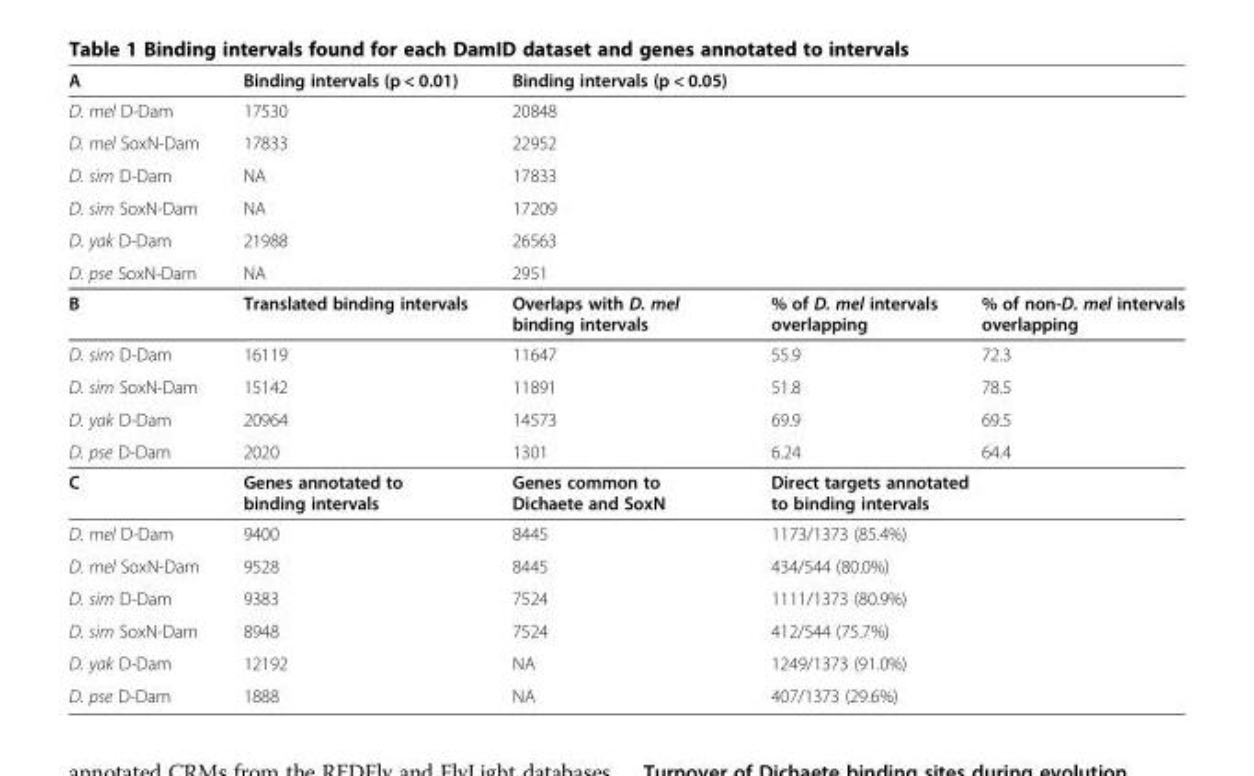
<table><thead><tr><td>A</td><td>Binding intervals (p &lt; 0.01)</td><td>Binding intervals (p &lt; 0.05)</td><td></td><td></td></tr></thead><tbody><tr><td>D. mel D-Dam</td><td>17530</td><td>20848</td><td></td><td></td></tr><tr><td>D. mel SoxN-Dam</td><td>17833</td><td>22952</td><td></td><td></td></tr><tr><td>D. sim D-Dam</td><td>NA</td><td>17833</td><td></td><td></td></tr><tr><td>D. sim SoxN-Dam</td><td>NA</td><td>17209</td><td></td><td></td></tr><tr><td>D. yak D-Dam</td><td>21988</td><td>26563</td><td></td><td></td></tr><tr><td>D. pse SoxN-Dam</td><td>NA</td><td>2951</td><td></td><td></td></tr><tr><td>B</td><td>Translated binding intervals</td><td>Overlaps with D. mel binding intervals</td><td>% of D. mel intervals overlapping</td><td>% of non-D. mel intervals overlapping</td></tr><tr><td>D. sim D-Dam</td><td>16119</td><td>11647</td><td>55.9</td><td>72.3</td></tr><tr><td>D. sim SoxN-Dam</td><td>15142</td><td>11891</td><td>51.8</td><td>78.5</td></tr><tr><td>D. yak D-Dam</td><td>20964</td><td>14573</td><td>69.9</td><td>69.5</td></tr><tr><td>D. pse D-Dam</td><td>2020</td><td>1301</td><td>6.24</td><td>64.4</td></tr><tr><td>C</td><td>Genes annotated to binding intervals</td><td>Genes common to Dichaete and SoxN</td><td colspan="2">Direct targets annotated to binding intervals</td></tr><tr><td>D. mel D-Dam</td><td>9400</td><td>8445</td><td>1173/1373 (85.4%)</td><td></td></tr><tr><td>D. mel SoxN-Dam</td><td>9528</td><td>8445</td><td>434/544 (80.0%)</td><td></td></tr><tr><td>D. sim D-Dam</td><td>9383</td><td>7524</td><td>1111/1373 (80.9%)</td><td></td></tr><tr><td>D. sim SoxN-Dam</td><td>8948</td><td>7524</td><td>412/544 (75.7%)</td><td></td></tr><tr><td>D. yak D-Dam</td><td>12192</td><td>NA</td><td>1249/1373 (91.0%)</td><td></td></tr><tr><td>D. pse D-Dam</td><td>1888</td><td>NA</td><td>407/1373 (29.6%)</td><td></td></tr></tbody></table>